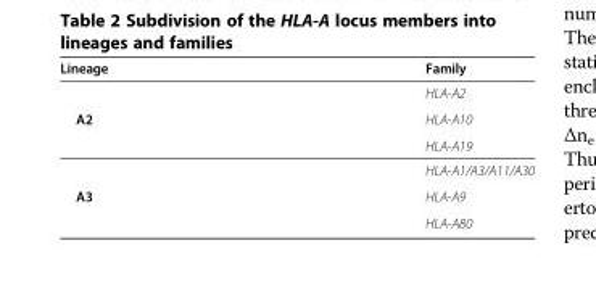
<table><thead><tr><td>Lineage</td><td>Family</td></tr></thead><tbody><tr><td></td><td>HLA-A2</td></tr><tr><td rowspan="3">A2</td><td>HLA-A10</td></tr><tr><td>HLA-A19</td></tr><tr><td>HLA-A1/A3/A11/A30</td></tr><tr><td rowspan="2">A3</td><td>HLA-A9</td></tr><tr><td>HLA-A80</td></tr></tbody></table>